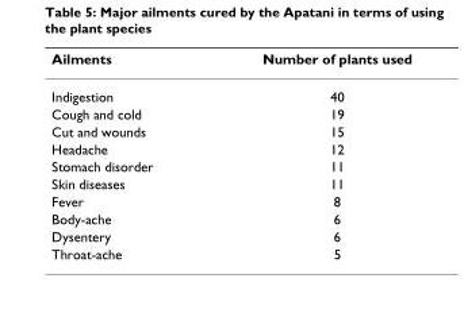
<table><thead><tr><td>Ailments</td><td>Number of plants used</td></tr></thead><tbody><tr><td>Indigestion</td><td>40</td></tr><tr><td>Cough and cold</td><td>19</td></tr><tr><td>Cut and wounds</td><td>15</td></tr><tr><td>Headache</td><td>12</td></tr><tr><td>Stomach disorder</td><td>11</td></tr><tr><td>Skin diseases</td><td>11</td></tr><tr><td>Fever</td><td>8</td></tr><tr><td>Body-ache</td><td>6</td></tr><tr><td>Dysentery</td><td>6</td></tr><tr><td>Throat-ache</td><td>5</td></tr></tbody></table>